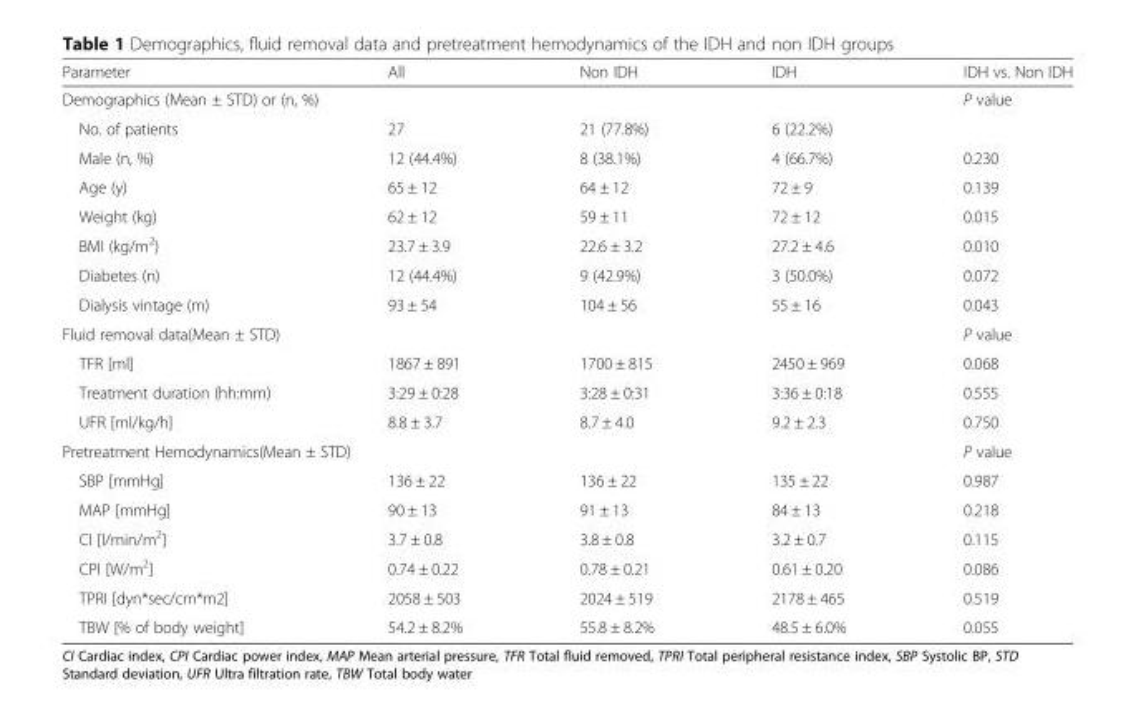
<table><thead><tr><td>Parameter</td><td>All</td><td>Non IDH</td><td>IDH</td><td>IDH vs. Non IDH</td></tr></thead><tbody><tr><td colspan="4">Demographics (Mean ± STD) or (n, %)</td><td>P value</td></tr><tr><td>No. of patients</td><td>27</td><td>21 (77.8%)</td><td>6 (22.2%)</td><td></td></tr><tr><td>Male (n, %)</td><td>12 (44.4%)</td><td>8 (38.1%)</td><td>4 (66.7%)</td><td>0.230</td></tr><tr><td>Age (y)</td><td>65 ± 12</td><td>64 ± 12</td><td>72 ± 9</td><td>0.139</td></tr><tr><td>Weight (kg)</td><td>62 ± 12</td><td>59 ± 11</td><td>72 ± 12</td><td>0.015</td></tr><tr><td>BMI (kg/m<sup>2</sup>)</td><td>23.7 ± 3.9</td><td>22.6 ± 3.2</td><td>27.2 ± 4.6</td><td>0.010</td></tr><tr><td>Diabetes (n)</td><td>12 (44.4%)</td><td>9 (42.9%)</td><td>3 (50.0%)</td><td>0.072</td></tr><tr><td>Dialysis vintage (m)</td><td>93 ± 54</td><td>104 ± 56</td><td>55 ± 16</td><td>0.043</td></tr><tr><td colspan="4">Fluid removal data(Mean ± STD)</td><td>P value</td></tr><tr><td>TFR [ml]</td><td>1867 ± 891</td><td>1700 ± 815</td><td>2450 ± 969</td><td>0.068</td></tr><tr><td>Treatment duration (hh:mm)</td><td>3:29 ± 0:28</td><td>3:28 ± 0:31</td><td>3:36 ± 0:18</td><td>0.555</td></tr><tr><td>UFR [ml/kg/h]</td><td>8.8 ± 3.7</td><td>8.7 ± 4.0</td><td>9.2 ± 2.3</td><td>0.750</td></tr><tr><td colspan="4">Pretreatment Hemodynamics(Mean ± STD)</td><td>P value</td></tr><tr><td>SBP [mmHg]</td><td>136 ± 22</td><td>136 ± 22</td><td>135 ± 22</td><td>0.987</td></tr><tr><td>MAP [mmHg]</td><td>90 ± 13</td><td>91 ± 13</td><td>84 ± 13</td><td>0.218</td></tr><tr><td>CI [l/min/m<sup>2</sup>]</td><td>3.7 ± 0.8</td><td>3.8 ± 0.8</td><td>3.2 ± 0.7</td><td>0.115</td></tr><tr><td>CPI [W/m<sup>2</sup>]</td><td>0.74 ± 0.22</td><td>0.78 ± 0.21</td><td>0.61 ± 0.20</td><td>0.086</td></tr><tr><td>TPRI [dyn*sec/cm*m2]</td><td>2058 ± 503</td><td>2024 ± 519</td><td>2178 ± 465</td><td>0.519</td></tr><tr><td>TBW [% of body weight]</td><td>54.2 ± 8.2%</td><td>55.8 ± 8.2%</td><td>48.5 ± 6.0%</td><td>0.055</td></tr></tbody></table>